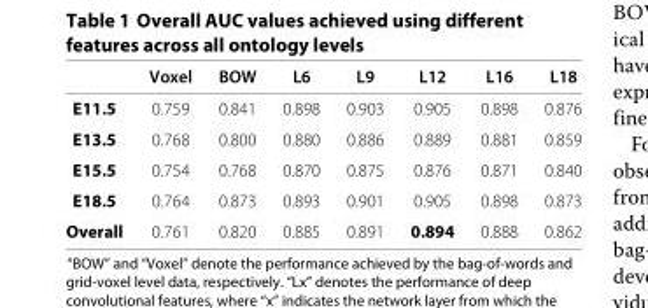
<table><thead><tr><td></td><td>Voxel</td><td>BOW</td><td>L6</td><td>L9</td><td>L12</td><td>L16</td><td>L18</td></tr></thead><tbody><tr><td>E11.5</td><td>0.759</td><td>0.841</td><td>0.898</td><td>0.903</td><td>0.905</td><td>0.898</td><td>0.876</td></tr><tr><td>E13.5</td><td>0.768</td><td>0.800</td><td>0.880</td><td>0.886</td><td>0.889</td><td>0.881</td><td>0.859</td></tr><tr><td>E15.5</td><td>0.754</td><td>0.768</td><td>0.870</td><td>0.875</td><td>0.876</td><td>0.871</td><td>0.840</td></tr><tr><td>E18.5</td><td>0.764</td><td>0.873</td><td>0.893</td><td>0.901</td><td>0.905</td><td>0.898</td><td>0.873</td></tr><tr><td>Overall</td><td>0.761</td><td>0.820</td><td>0.885</td><td>0.891</td><td>0.894</td><td>0.888</td><td>0.862</td></tr></tbody></table>